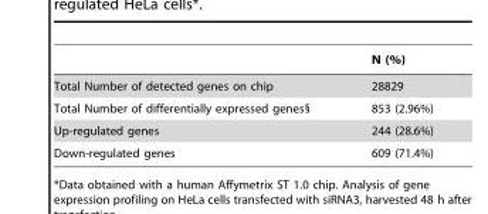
<table><thead><tr><td></td><td>N (%)</td></tr></thead><tbody><tr><td>Total Number of detected genes on chip</td><td>28829</td></tr><tr><td>Total Number of differentially expressed genes§</td><td>853 (2.96%)</td></tr><tr><td>Up-regulated genes</td><td>244 (28.6%)</td></tr><tr><td>Down-regulated genes</td><td>609 (71.4%)</td></tr></tbody></table>